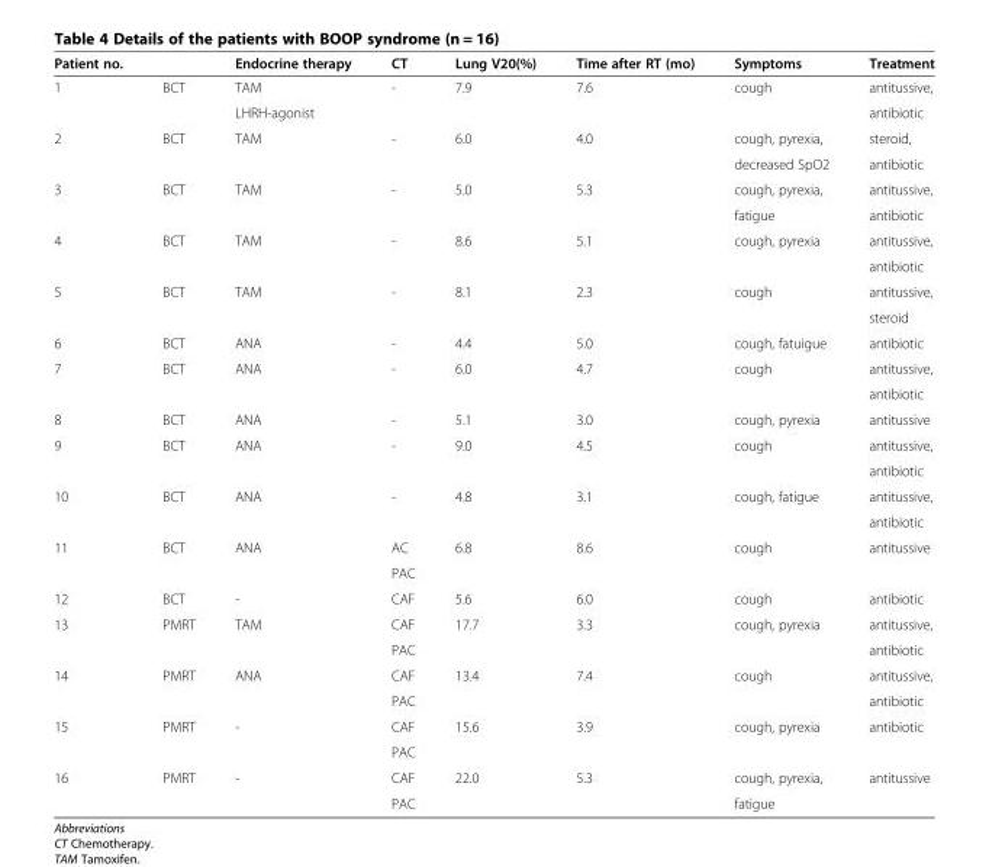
<table><thead><tr><td>Patient no.</td><td></td><td>Endocrine therapy</td><td>CT</td><td>Lung V20(%)</td><td>Time after RT (mo)</td><td>Symptoms</td><td>Treatment</td></tr></thead><tbody><tr><td rowspan="2">1</td><td>BCT</td><td>TAM</td><td>-</td><td>7.9</td><td>7.6</td><td>cough</td><td>antitussive,</td></tr><tr><td></td><td>LHRH-agonist</td><td></td><td></td><td></td><td></td><td>antibiotic</td></tr><tr><td rowspan="2">2</td><td>BCT</td><td>TAM</td><td>-</td><td>6.0</td><td>4.0</td><td>cough, pyrexia,</td><td>steroid,</td></tr><tr><td></td><td></td><td></td><td></td><td></td><td>decreased SpO2</td><td>antibiotic</td></tr><tr><td rowspan="2">3</td><td>BCT</td><td>TAM</td><td>-</td><td>5.0</td><td>5.3</td><td>cough, pyrexia,</td><td>antitussive,</td></tr><tr><td></td><td></td><td></td><td></td><td></td><td>fatigue</td><td>antibiotic</td></tr><tr><td rowspan="2">4</td><td>BCT</td><td>TAM</td><td>-</td><td>8.6</td><td>5.1</td><td>cough, pyrexia</td><td>antitussive,</td></tr><tr><td></td><td></td><td></td><td></td><td></td><td></td><td>antibiotic</td></tr><tr><td rowspan="2">5</td><td>BCT</td><td>TAM</td><td>-</td><td>8.1</td><td>2.3</td><td>cough</td><td>antitussive,</td></tr><tr><td></td><td></td><td></td><td></td><td></td><td></td><td>steroid</td></tr><tr><td>6</td><td>BCT</td><td>ANA</td><td>-</td><td>4.4</td><td>5.0</td><td>cough, fatuigue</td><td>antibiotic</td></tr><tr><td rowspan="2">7</td><td>BCT</td><td>ANA</td><td>-</td><td>6.0</td><td>4.7</td><td>cough</td><td>antitussive,</td></tr><tr><td></td><td></td><td></td><td></td><td></td><td></td><td>antibiotic</td></tr><tr><td>8</td><td>BCT</td><td>ANA</td><td>-</td><td>5.1</td><td>3.0</td><td>cough, pyrexia</td><td>antitussive</td></tr><tr><td rowspan="2">9</td><td>BCT</td><td>ANA</td><td>-</td><td>9.0</td><td>4.5</td><td>cough</td><td>antitussive,</td></tr><tr><td></td><td></td><td></td><td></td><td></td><td></td><td>antibiotic</td></tr><tr><td rowspan="2">10</td><td>BCT</td><td>ANA</td><td>-</td><td>4.8</td><td>3.1</td><td>cough, fatigue</td><td>antitussive,</td></tr><tr><td></td><td></td><td></td><td></td><td></td><td></td><td>antibiotic</td></tr><tr><td rowspan="2">11</td><td>BCT</td><td>ANA</td><td>AC</td><td>6.8</td><td>8.6</td><td>cough</td><td>antitussive</td></tr><tr><td></td><td></td><td>PAC</td><td></td><td></td><td></td><td></td></tr><tr><td>12</td><td>BCT</td><td>-</td><td>CAF</td><td>5.6</td><td>6.0</td><td>cough</td><td>antibiotic</td></tr><tr><td rowspan="2">13</td><td>PMRT</td><td>TAM</td><td>CAF</td><td>17.7</td><td>3.3</td><td>cough, pyrexia</td><td>antitussive,</td></tr><tr><td></td><td></td><td>PAC</td><td></td><td></td><td></td><td>antibiotic</td></tr><tr><td rowspan="2">14</td><td>PMRT</td><td>ANA</td><td>CAF</td><td>13.4</td><td>7.4</td><td>cough</td><td>antitussive,</td></tr><tr><td></td><td></td><td>PAC</td><td></td><td></td><td></td><td>antibiotic</td></tr><tr><td rowspan="2">15</td><td>PMRT</td><td>-</td><td>CAF</td><td>15.6</td><td>3.9</td><td>cough, pyrexia</td><td>antibiotic</td></tr><tr><td></td><td></td><td>PAC</td><td></td><td></td><td></td><td></td></tr><tr><td rowspan="2">16</td><td>PMRT</td><td>-</td><td>CAF</td><td>22.0</td><td>5.3</td><td>cough, pyrexia,</td><td>antitussive</td></tr><tr><td></td><td></td><td>PAC</td><td></td><td></td><td>fatigue</td><td></td></tr></tbody></table>